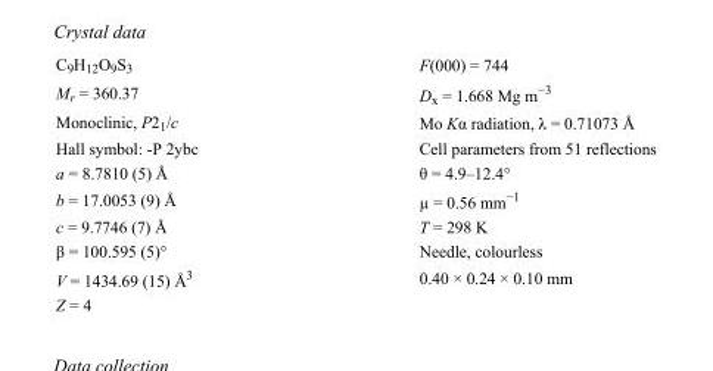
<table><tbody><tr><td>C<sub>9</sub>H<sub>12</sub>O<sub>9</sub>S<sub>3</sub></td><td>F(000) = 744</td></tr><tr><td>M<sub>r</sub> = 360.37</td><td>D<sub>x</sub> = 1.668 Mg m<sup>−3</sup></td></tr><tr><td>Monoclinic, P2<sub>1</sub>/c</td><td>Mo Kα radiation, λ = 0.71073 Å</td></tr><tr><td>Hall symbol: -P 2ybc</td><td>Cell parameters from 51 reflections</td></tr><tr><td>a = 8.7810 (5) Å</td><td>θ = 4.9–12.4°</td></tr><tr><td>b = 17.0053 (9) Å</td><td>µ = 0.56 mm<sup>−1</sup></td></tr><tr><td>c = 9.7746 (7) Å</td><td>T = 298 K</td></tr><tr><td>β = 100.595 (5)°</td><td>Needle, colourless</td></tr><tr><td>V = 1434.69 (15) Å<sup>3</sup></td><td>0.40 × 0.24 × 0.10 mm</td></tr><tr><td>Z = 4</td><td></td></tr></tbody></table>